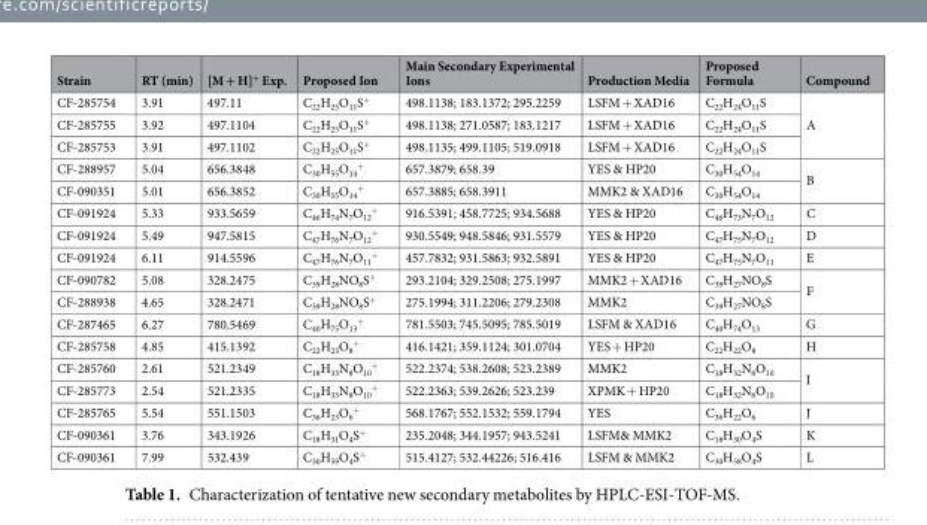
<table><thead><tr><td>Strain</td><td>RT (min)</td><td>[M + H]<sup>+</sup> Exp.</td><td>Proposed Ion</td><td>Main Secondary Experimental Ions</td><td>Production Media</td><td>Proposed Formula</td><td>Compound</td></tr></thead><tbody><tr><td>CF-285754</td><td>3.91</td><td>497.11</td><td>C<sub>22</sub>H<sub>25</sub>O<sub>11</sub>S<sup>+</sup></td><td>498.1138; 183.1372; 295.2259</td><td>LSFM + XAD16</td><td>C<sub>22</sub>H<sub>24</sub>O<sub>11</sub>S</td><td rowspan="3">A</td></tr><tr><td>CF-285755</td><td>3.92</td><td>497.1104</td><td>C<sub>22</sub>H<sub>25</sub>O<sub>11</sub>S<sup>+</sup></td><td>498.1138; 271.0587; 183.1217</td><td>LSFM + XAD16</td><td>C<sub>22</sub>H<sub>24</sub>O<sub>11</sub>S</td></tr><tr><td>CF-285753</td><td>3.91</td><td>497.1102</td><td>C<sub>22</sub>H<sub>25</sub>O<sub>11</sub>S<sup>+</sup></td><td>498.1135; 499.1105; 519.0918</td><td>LSFM + XAD16</td><td>C<sub>22</sub>H<sub>24</sub>O<sub>11</sub>S</td></tr><tr><td>CF-288957</td><td>5.04</td><td>656.3848</td><td>C<sub>30</sub>H<sub>55</sub>O<sub>14</sub> <sup>+</sup></td><td>657.3879; 658.39</td><td>YES &amp; HP20</td><td>C<sub>30</sub>H<sub>54</sub>O<sub>14</sub></td><td rowspan="2">B</td></tr><tr><td>CF-090351</td><td>5.01</td><td>656.3852</td><td>C<sub>30</sub>H<sub>55</sub>O<sub>14</sub> <sup>+</sup></td><td>657.3885; 658.3911</td><td>MMK2 &amp; XAD16</td><td>C<sub>30</sub>H<sub>54</sub>O<sub>14</sub></td></tr><tr><td>CF-091924</td><td>5.33</td><td>933.5659</td><td>C<sub>46</sub>H<sub>74</sub>N<sub>7</sub>O<sub>12</sub> <sup>+</sup></td><td>916.5391; 458.7725; 934.5688</td><td>YES &amp; HP20</td><td>C<sub>46</sub>H<sub>73</sub>N<sub>7</sub>O<sub>12</sub></td><td>C</td></tr><tr><td>CF-091924</td><td>5.49</td><td>947.5815</td><td>C<sub>47</sub>H<sub>76</sub>N<sub>7</sub>O<sub>12</sub> <sup>+</sup></td><td>930.5549; 948.5846; 931.5579</td><td>YES &amp; HP20</td><td>C<sub>47</sub>H<sub>75</sub>N<sub>7</sub>O<sub>12</sub></td><td>D</td></tr><tr><td>CF-091924</td><td>6.11</td><td>914.5596</td><td>C<sub>47</sub>H<sub>76</sub>N<sub>7</sub>O<sub>11</sub> <sup>+</sup></td><td>457.7832; 931.5863; 932.5891</td><td>YES &amp; HP20</td><td>C<sub>47</sub>H<sub>75</sub>N<sub>7</sub>O<sub>11</sub></td><td>E</td></tr><tr><td>CF-090782</td><td>5.08</td><td>328.2475</td><td>C<sub>39</sub>H<sub>28</sub>NO<sub>8</sub>S<sup>+</sup></td><td>293.2104; 329.2508; 275.1997</td><td>MMK2 + XAD16</td><td>C<sub>39</sub>H<sub>27</sub>NO<sub>8</sub>S</td><td rowspan="2">F</td></tr><tr><td>CF-288938</td><td>4.65</td><td>328.2471</td><td>C<sub>39</sub>H<sub>28</sub>NO<sub>8</sub>S<sup>+</sup></td><td>275.1994; 311.2206; 279.2308</td><td>MMK2</td><td>C<sub>39</sub>H<sub>27</sub>NO<sub>8</sub>S</td></tr><tr><td>CF-287465</td><td>6.27</td><td>780.5469</td><td>C<sub>40</sub>H<sub>75</sub>O<sub>13</sub> <sup>+</sup></td><td>781.5503; 745.5095; 785.5019</td><td>LSFM &amp; XAD16</td><td>C<sub>40</sub>H<sub>74</sub>O<sub>13</sub></td><td>G</td></tr><tr><td>CF-285758</td><td>4.85</td><td>415.1392</td><td>C<sub>22</sub>H<sub>23</sub>O<sub>8</sub> <sup>+</sup></td><td>416.1421; 359.1124; 301.0704</td><td>YES + HP20</td><td>C<sub>22</sub>H<sub>22</sub>O<sub>8</sub></td><td>H</td></tr><tr><td>CF-285760</td><td>2.61</td><td>521.2349</td><td>C<sub>18</sub>H<sub>33</sub>N<sub>8</sub>O<sub>10</sub> <sup>+</sup></td><td>522.2374; 538.2608; 523.2389</td><td>MMK2</td><td>C<sub>18</sub>H<sub>32</sub>N<sub>8</sub>O<sub>10</sub></td><td rowspan="2">I</td></tr><tr><td>CF-285773</td><td>2.54</td><td>521.2335</td><td>C<sub>18</sub>H<sub>33</sub>N<sub>8</sub>O<sub>10</sub> <sup>+</sup></td><td>522.2363; 539.2626; 523.239</td><td>XPMK + HP20</td><td>C<sub>18</sub>H<sub>32</sub>N<sub>8</sub>O<sub>10</sub></td></tr><tr><td>CF-285765</td><td>5.54</td><td>551.1503</td><td>C<sub>36</sub>H<sub>23</sub>O<sub>6</sub> <sup>+</sup></td><td>568.1767; 552.1532; 559.1794</td><td>YES</td><td>C<sub>36</sub>H<sub>22</sub>O<sub>6</sub></td><td>J</td></tr><tr><td>CF-090361</td><td>3.76</td><td>343.1926</td><td>C<sub>18</sub>H<sub>31</sub>O<sub>4</sub>S<sup>+</sup></td><td>235.2048; 344.1957; 943.5241</td><td>LSFM&amp; MMK2</td><td>C<sub>18</sub>H<sub>30</sub>O<sub>4</sub>S</td><td>K</td></tr><tr><td>CF-090361</td><td>7.99</td><td>532.439</td><td>C<sub>30</sub>H<sub>59</sub>O<sub>4</sub>S<sup>+</sup></td><td>515.4127; 532.44226; 516.416</td><td>LSFM &amp; MMK2</td><td>C<sub>30</sub>H<sub>58</sub>O<sub>4</sub>S</td><td>L</td></tr></tbody></table>